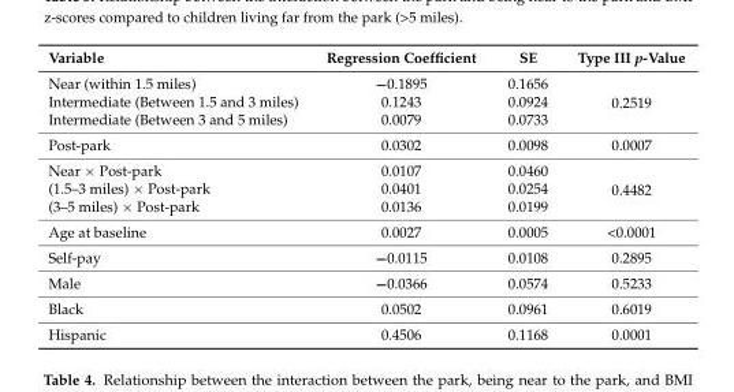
<table><thead><tr><td>Variable</td><td>Regression Coefficient</td><td>SE</td><td>Type III p-Value</td></tr></thead><tbody><tr><td>Near (within 1.5 miles)</td><td>−0.1895</td><td>0.1656</td><td rowspan="3">0.2519</td></tr><tr><td>Intermediate (Between 1.5 and 3 miles)</td><td>0.1243</td><td>0.0924</td></tr><tr><td>Intermediate (Between 3 and 5 miles)</td><td>0.0079</td><td>0.0733</td></tr><tr><td>Post-park</td><td>0.0302</td><td>0.0098</td><td>0.0007</td></tr><tr><td>Near × Post-park</td><td>0.0107</td><td>0.0460</td><td rowspan="3">0.4482</td></tr><tr><td>(1.5–3 miles) × Post-park</td><td>0.0401</td><td>0.0254</td></tr><tr><td>(3–5 miles) × Post-park</td><td>0.0136</td><td>0.0199</td></tr><tr><td>Age at baseline</td><td>0.0027</td><td>0.0005</td><td>&lt;0.0001</td></tr><tr><td>Self-pay</td><td>−0.0115</td><td>0.0108</td><td>0.2895</td></tr><tr><td>Male</td><td>−0.0366</td><td>0.0574</td><td>0.5233</td></tr><tr><td>Black</td><td>0.0502</td><td>0.0961</td><td>0.6019</td></tr><tr><td>Hispanic</td><td>0.4506</td><td>0.1168</td><td>0.0001</td></tr></tbody></table>